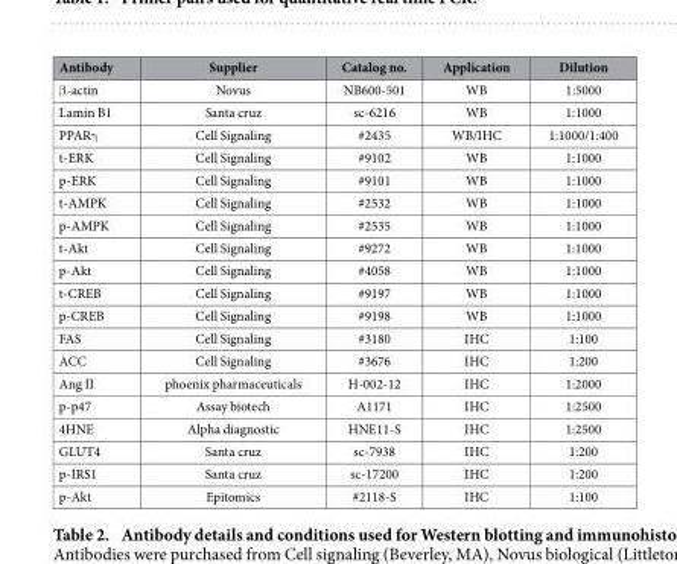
<table><thead><tr><td>Antibody</td><td>Supplier</td><td>Catalog no.</td><td>Application</td><td>Dilution</td></tr></thead><tbody><tr><td>β -actin</td><td>Novus</td><td>NB600-501</td><td>WB</td><td>1:5000</td></tr><tr><td>Lamin B1</td><td>Santa cruz</td><td>sc-6216</td><td>WB</td><td>1:1000</td></tr><tr><td>PPARγ</td><td>Cell Signaling</td><td>#2435</td><td>WB/IHC</td><td>1:1000/1:400</td></tr><tr><td>t-ERK</td><td>Cell Signaling</td><td>#9102</td><td>WB</td><td>1:1000</td></tr><tr><td>p-ERK</td><td>Cell Signaling</td><td>#9101</td><td>WB</td><td>1:1000</td></tr><tr><td>t-AMPK</td><td>Cell Signaling</td><td>#2532</td><td>WB</td><td>1:1000</td></tr><tr><td>p-AMPK</td><td>Cell Signaling</td><td>#2535</td><td>WB</td><td>1:1000</td></tr><tr><td>t-Akt</td><td>Cell Signaling</td><td>#9272</td><td>WB</td><td>1:1000</td></tr><tr><td>p-Akt</td><td>Cell Signaling</td><td>#4058</td><td>WB</td><td>1:1000</td></tr><tr><td>t-CREB</td><td>Cell Signaling</td><td>#9197</td><td>WB</td><td>1:1000</td></tr><tr><td>p-CREB</td><td>Cell Signaling</td><td>#9198</td><td>WB</td><td>1:1000</td></tr><tr><td>FAS</td><td>Cell Signaling</td><td>#3180</td><td>IHC</td><td>1:100</td></tr><tr><td>ACC</td><td>Cell Signaling</td><td>#3676</td><td>IHC</td><td>1:200</td></tr><tr><td>Ang II</td><td>phoenix pharmaceuticals</td><td>H-002-12</td><td>IHC</td><td>1:2000</td></tr><tr><td>p-p47</td><td>Assay biotech</td><td>A1171</td><td>IHC</td><td>1:2500</td></tr><tr><td>4HNE</td><td>Alpha diagnostic</td><td>HNE11-S</td><td>IHC</td><td>1:2500</td></tr><tr><td>GLUT4</td><td>Santa cruz</td><td>sc-7938</td><td>IHC</td><td>1:200</td></tr><tr><td>p-IRS1</td><td>Santa cruz</td><td>sc-17200</td><td>IHC</td><td>1:200</td></tr><tr><td>p-Akt</td><td>Epitomics</td><td>#2118-S</td><td>IHC</td><td>1:100</td></tr></tbody></table>